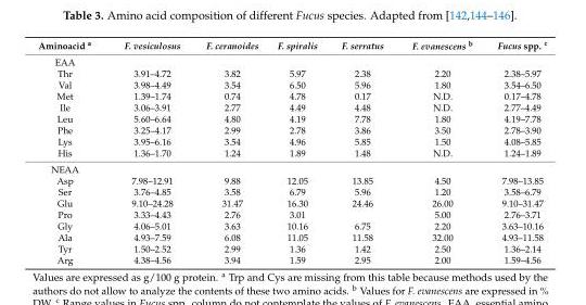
<table><thead><tr><td>Aminoacid <sup>a</sup></td><td>F. vesiculosus</td><td>F. ceranoides</td><td>F. spiralis</td><td>F. serratus</td><td>F. evanescens <sup>b</sup></td><td>Fucus spp. <sup>c</sup></td></tr></thead><tbody><tr><td colspan="7">EAA</td></tr><tr><td>Thr</td><td>3.91–4.72</td><td>3.82</td><td>5.97</td><td>2.38</td><td>2.20</td><td>2.38–5.97</td></tr><tr><td>Val</td><td>3.98–4.49</td><td>3.54</td><td>6.50</td><td>5.96</td><td>1.80</td><td>3.54–6.50</td></tr><tr><td>Met</td><td>1.39–1.74</td><td>0.74</td><td>4.78</td><td>0.17</td><td>N.D.</td><td>0.17–4.78</td></tr><tr><td>Ile</td><td>3.06–3.91</td><td>2.77</td><td>4.49</td><td>4.48</td><td>N.D.</td><td>2.77–4.49</td></tr><tr><td>Leu</td><td>5.60–6.64</td><td>4.80</td><td>4.19</td><td>7.78</td><td>1.80</td><td>4.19–7.78</td></tr><tr><td>Phe</td><td>3.25–4.17</td><td>2.99</td><td>2.78</td><td>3.86</td><td>3.50</td><td>2.78–3.90</td></tr><tr><td>Lys</td><td>3.95–6.16</td><td>3.54</td><td>4.96</td><td>5.85</td><td>1.50</td><td>4.08–5.85</td></tr><tr><td>His</td><td>1.36–1.70</td><td>1.24</td><td>1.89</td><td>1.48</td><td>N.D.</td><td>1.24–1.89</td></tr><tr><td colspan="7">NEAA</td></tr><tr><td>Asp</td><td>7.98–12.91</td><td>9.88</td><td>12.05</td><td>13.85</td><td>4.50</td><td>7.98–13.85</td></tr><tr><td>Ser</td><td>3.76–4.85</td><td>3.58</td><td>6.79</td><td>5.96</td><td>1.20</td><td>3.58–6.79</td></tr><tr><td>Glu</td><td>9.10–24.28</td><td>31.47</td><td>16.30</td><td>24.46</td><td>26.00</td><td>9.10–31.47</td></tr><tr><td>Pro</td><td>3.33–4.43</td><td>2.76</td><td>3.01</td><td></td><td>5.00</td><td>2.76–3.71</td></tr><tr><td>Gly</td><td>4.06–5.01</td><td>3.63</td><td>10.16</td><td>6.75</td><td>2.20</td><td>3.63–10.16</td></tr><tr><td>Ala</td><td>4.93–7.59</td><td>6.08</td><td>11.05</td><td>11.58</td><td>32.00</td><td>4.93–11.58</td></tr><tr><td>Tyr</td><td>1.50–2.52</td><td>2.99</td><td>1.36</td><td>1.42</td><td>2.50</td><td>1.36–2.14</td></tr><tr><td>Arg</td><td>4.38–4.56</td><td>3.94</td><td>1.59</td><td>2.95</td><td>2.00</td><td>1.59–4.56</td></tr></tbody></table>